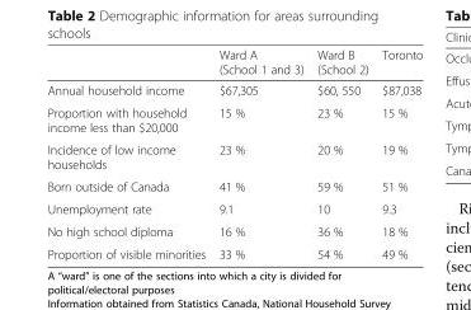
<table><thead><tr><td></td><td>Ward A (School 1 and 3)</td><td>Ward B (School 2)</td><td>Toronto</td></tr></thead><tbody><tr><td>Annual household income</td><td>$67,305</td><td>$60, 550</td><td>$87,038</td></tr><tr><td>Proportion with household income less than $20,000</td><td>15 %</td><td>23 %</td><td>15 %</td></tr><tr><td>Incidence of low income households</td><td>23 %</td><td>20 %</td><td>19 %</td></tr><tr><td>Born outside of Canada</td><td>41 %</td><td>59 %</td><td>51 %</td></tr><tr><td>Unemployment rate</td><td>9.1</td><td>10</td><td>9.3</td></tr><tr><td>No high school diploma</td><td>16 %</td><td>36 %</td><td>18 %</td></tr><tr><td>Proportion of visible minorities</td><td>33 %</td><td>54 %</td><td>49 %</td></tr></tbody></table>